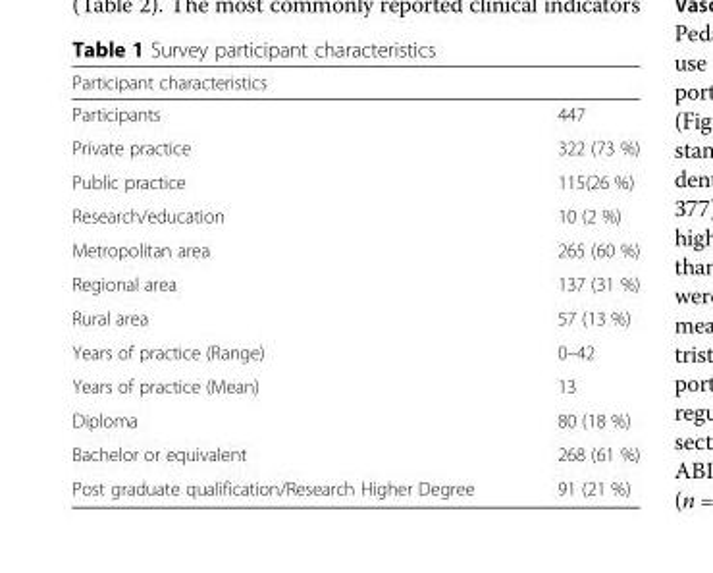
<table><thead><tr><td colspan="2">Participant characteristics</td></tr><tr><td>Participants</td><td>447</td></tr></thead><tbody><tr><td>Private practice</td><td>322 (73 %)</td></tr><tr><td>Public practice</td><td>115(26 %)</td></tr><tr><td>Research/education</td><td>10 (2 %)</td></tr><tr><td>Metropolitan area</td><td>265 (60 %)</td></tr><tr><td>Regional area</td><td>137 (31 %)</td></tr><tr><td>Rural area</td><td>57 (13 %)</td></tr><tr><td>Years of practice (Range)</td><td>0–42</td></tr><tr><td>Years of practice (Mean)</td><td>13</td></tr><tr><td>Diploma</td><td>80 (18 %)</td></tr><tr><td>Bachelor or equivalent</td><td>268 (61 %)</td></tr><tr><td>Post graduate qualification/Research Higher Degree</td><td>91 (21 %)</td></tr></tbody></table>